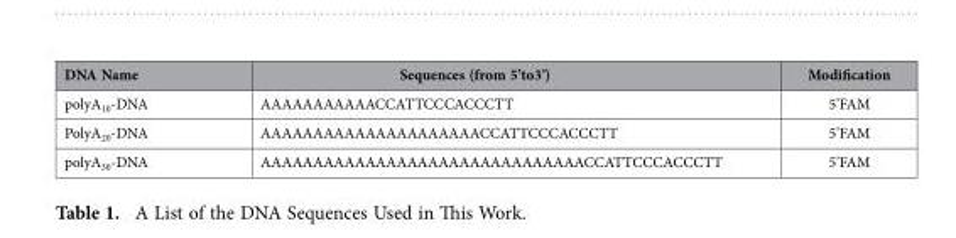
<table><thead><tr><td>DNA Name</td><td>Sequences (from 5’to3’)</td><td>Modification</td></tr></thead><tbody><tr><td>polyA<sub>10</sub>-DNA</td><td>AAAAAAAAAAACCATTCCCACCCTT</td><td>5’FAM</td></tr><tr><td>PolyA<sub>20</sub>-DNA</td><td>AAAAAAAAAAAAAAAAAAAAACCATTCCCACCCTT</td><td>5’FAM</td></tr><tr><td>polyA<sub>30</sub>-DNA</td><td>AAAAAAAAAAAAAAAAAAAAAAAAAAAAAAACCATTCCCACCCTT</td><td>5’FAM</td></tr></tbody></table>